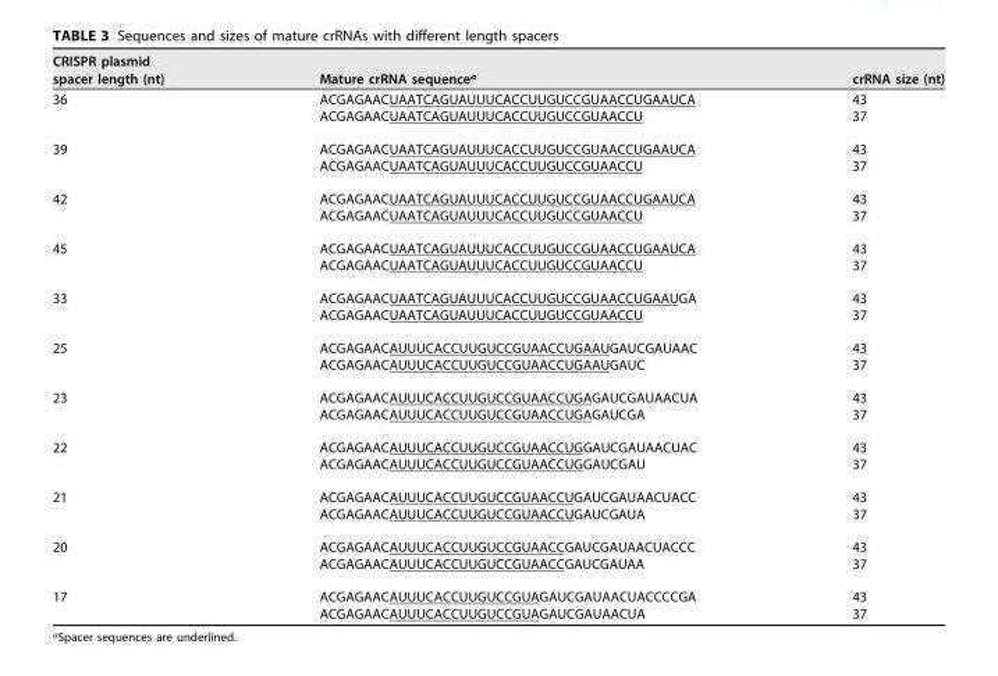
<table><thead><tr><td>CRISPR plasmid spacer length (nt)</td><td>Mature crRNA sequence<sup>a</sup></td><td>crRNA size (nt)</td></tr></thead><tbody><tr><td rowspan="2">36</td><td>ACGAGAACUAATCAGUAUUUCACCUUGUCCGUAACCUGAAUCA</td><td>43</td></tr><tr><td>ACGAGAACUAATCAGUAUUUCACCUUGUCCGUAACCU</td><td>37</td></tr><tr><td rowspan="2">39</td><td>ACGAGAACUAATCAGUAUUUCACCUUGUCCGUAACCUGAAUCA</td><td>43</td></tr><tr><td>ACGAGAACUAATCAGUAUUUCACCUUGUCCGUAACCU</td><td>37</td></tr><tr><td rowspan="2">42</td><td>ACGAGAACUAATCAGUAUUUCACCUUGUCCGUAACCUGAAUCA</td><td>43</td></tr><tr><td>ACGAGAACUAATCAGUAUUUCACCUUGUCCGUAACCU</td><td>37</td></tr><tr><td rowspan="2">45</td><td>ACGAGAACUAATCAGUAUUUCACCUUGUCCGUAACCUGAAUCA</td><td>43</td></tr><tr><td>ACGAGAACUAATCAGUAUUUCACCUUGUCCGUAACCU</td><td>37</td></tr><tr><td rowspan="2">33</td><td>ACGAGAACUAATCAGUAUUUCACCUUGUCCGUAACCUGAAUGA</td><td>43</td></tr><tr><td>ACGAGAACUAATCAGUAUUUCACCUUGUCCGUAACCU</td><td>37</td></tr><tr><td rowspan="2">25</td><td>ACGAGAACAUUUCACCUUGUCCGUAACCUGAAUGAUCGAUAAC</td><td>43</td></tr><tr><td>ACGAGAACAUUUCACCUUGUCCGUAACCUGAAUGAUC</td><td>37</td></tr><tr><td rowspan="2">23</td><td>ACGAGAACAUUUCACCUUGUCCGUAACCUGAGAUCGAUAACUA</td><td>43</td></tr><tr><td>ACGAGAACAUUUCACCUUGUCCGUAACCUGAGAUCGA</td><td>37</td></tr><tr><td rowspan="2">22</td><td>ACGAGAACAUUUCACCUUGUCCGUAACCUGGAUCGAUAACUAC</td><td>43</td></tr><tr><td>ACGAGAACAUUUCACCUUGUCCGUAACCUGGAUCGAU</td><td>37</td></tr><tr><td rowspan="2">21</td><td>ACGAGAACAUUUCACCUUGUCCGUAACCUGAUCGAUAACUACC</td><td>43</td></tr><tr><td>ACGAGAACAUUUCACCUUGUCCGUAACCUGAUCGAUA</td><td>37</td></tr><tr><td rowspan="2">20</td><td>ACGAGAACAUUUCACCUUGUCCGUAACCGAUCGAUAACUACCC</td><td>43</td></tr><tr><td>ACGAGAACAUUUCACCUUGUCCGUAACCGAUCGAUAA</td><td>37</td></tr><tr><td rowspan="2">17</td><td>ACGAGAACAUUUCACCUUGUCCGUAGAUCGAUAACUACCCCGA</td><td>43</td></tr><tr><td>ACGAGAACAUUUCACCUUGUCCGUAGAUCGAUAACUA</td><td>37</td></tr></tbody></table>